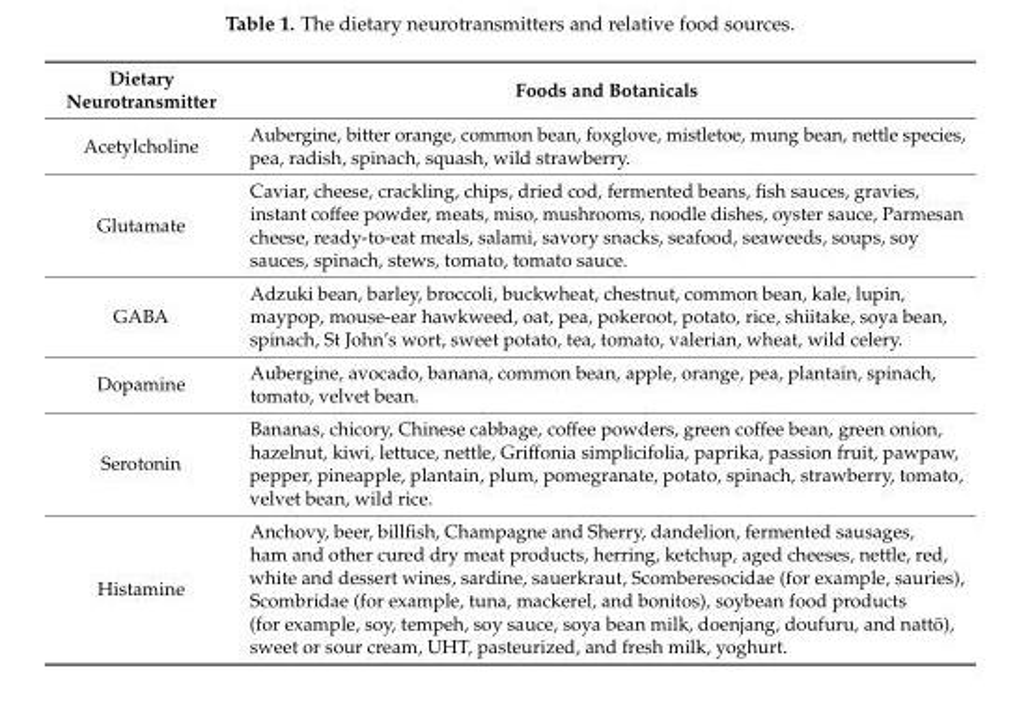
<table><thead><tr><td>Dietary Neurotransmitter</td><td>Foods and Botanicals</td></tr></thead><tbody><tr><td>Acetylcholine</td><td>Aubergine, bitter orange, common bean, foxglove, mistletoe, mung bean, nettle species, pea, radish, spinach, squash, wild strawberry.</td></tr><tr><td>Glutamate</td><td>Caviar, cheese, crackling, chips, dried cod, fermented beans, fish sauces, gravies, instant coffee powder, meats, miso, mushrooms, noodle dishes, oyster sauce, Parmesan cheese, ready-to-eat meals, salami, savory snacks, seafood, seaweeds, soups, soy sauces, spinach, stews, tomato, tomato sauce.</td></tr><tr><td>GABA</td><td>Adzuki bean, barley, broccoli, buckwheat, chestnut, common bean, kale, lupin, maypop, mouse-ear hawkweed, oat, pea, pokeroot, potato, rice, shiitake, soya bean, spinach, St John’s wort, sweet potato, tea, tomato, valerian, wheat, wild celery.</td></tr><tr><td>Dopamine</td><td>Aubergine, avocado, banana, common bean, apple, orange, pea, plantain, spinach, tomato, velvet bean.</td></tr><tr><td>Serotonin</td><td>Bananas, chicory, Chinese cabbage, coffee powders, green coffee bean, green onion, hazelnut, kiwi, lettuce, nettle, Griffonia simplicifolia, paprika, passion fruit, pawpaw, pepper, pineapple, plantain, plum, pomegranate, potato, spinach, strawberry, tomato, velvet bean, wild rice.</td></tr><tr><td>Histamine</td><td>Anchovy, beer, billfish, Champagne and Sherry, dandelion, fermented sausages, ham and other cured dry meat products, herring, ketchup, aged cheeses, nettle, red, white and dessert wines, sardine, sauerkraut, Scomberesocidae (for example, sauries), Scombridae (for example, tuna, mackerel, and bonitos), soybean food products (for example, soy, tempeh, soy sauce, soya bean milk, doenjang, doufuru, and natt¯o), sweet or sour cream, UHT, pasteurized, and fresh milk, yoghurt.</td></tr></tbody></table>